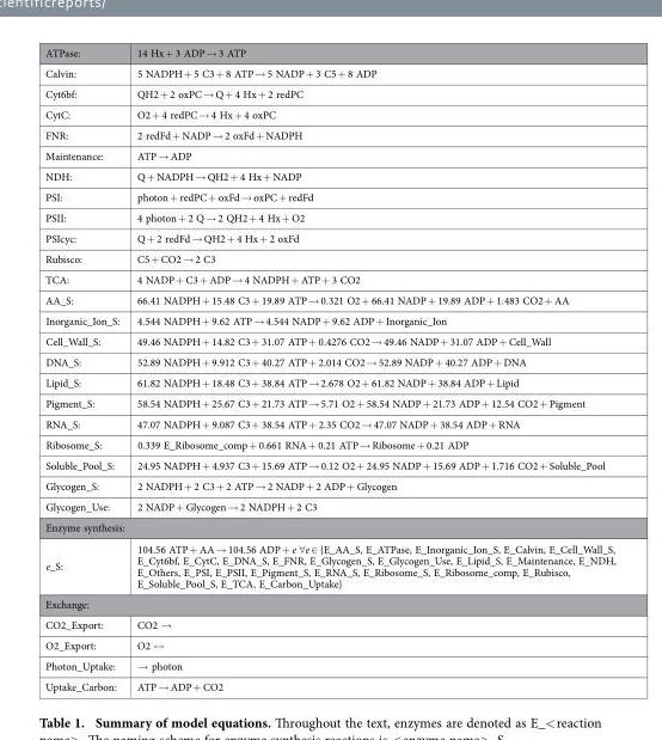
<table><tbody><tr><td>ATPase:</td><td>14 Hx + 3 ADP → 3 ATP</td></tr><tr><td>Calvin:</td><td>5 NADPH + 5 C3 + 8 ATP → 5 NADP + 3 C5 + 8 ADP</td></tr><tr><td>Cyt6bf:</td><td>QH2 + 2 oxPC → Q + 4 Hx + 2 redPC</td></tr><tr><td>CytC:</td><td>O2 + 4 redPC → 4 Hx + 4 oxPC</td></tr><tr><td>FNR:</td><td>2 redFd + NADP → 2 oxFd + NADPH</td></tr><tr><td>Maintenance:</td><td>ATP → ADP</td></tr><tr><td>NDH:</td><td>Q + NADPH → QH2 + 4 Hx + NADP</td></tr><tr><td>PSI:</td><td>photon + redPC + oxFd → oxPC + redFd</td></tr><tr><td>PSII:</td><td>4 photon + 2 Q → 2 QH2 + 4 Hx + O2</td></tr><tr><td>PSIcyc:</td><td>Q + 2 redFd → QH2 + 4 Hx + 2 oxFd</td></tr><tr><td>Rubisco:</td><td>C5 + CO2 → 2 C3</td></tr><tr><td>TCA:</td><td>4 NADP + C3 + ADP → 4 NADPH + ATP + 3 CO2</td></tr><tr><td>AA_S:</td><td>66.41 NADPH + 15.48 C3 + 19.89 ATP → 0.321 O2 + 66.41 NADP + 19.89 ADP + 1.483 CO2 + AA</td></tr><tr><td>Inorganic_Ion_S:</td><td>4.544 NADPH + 9.62 ATP → 4.544 NADP + 9.62 ADP + Inorganic_Ion</td></tr><tr><td>Cell_Wall_S:</td><td>49.46 NADPH + 14.82 C3 + 31.07 ATP + 0.4276 CO2 → 49.46 NADP + 31.07 ADP + Cell_Wall</td></tr><tr><td>DNA_S:</td><td>52.89 NADPH + 9.912 C3 + 40.27 ATP + 2.014 CO2 → 52.89 NADP + 40.27 ADP + DNA</td></tr><tr><td>Lipid_S:</td><td>61.82 NADPH + 18.48 C3 + 38.84 ATP → 2.678 O2 + 61.82 NADP + 38.84 ADP + Lipid</td></tr><tr><td>Pigment_S:</td><td>58.54 NADPH + 25.67 C3 + 21.73 ATP → 5.71 O2 + 58.54 NADP + 21.73 ADP + 12.54 CO2 + Pigment</td></tr><tr><td>RNA_S:</td><td>47.07 NADPH + 9.087 C3 + 38.54 ATP + 2.35 CO2 → 47.07 NADP + 38.54 ADP + RNA</td></tr><tr><td>Ribosome_S:</td><td>0.339 E_Ribosome_comp + 0.661 RNA + 0.21 ATP → Ribosome + 0.21 ADP</td></tr><tr><td>Soluble_Pool_S:</td><td>24.95 NADPH + 4.937 C3 + 15.69 ATP → 0.12 O2 + 24.95 NADP + 15.69 ADP + 1.716 CO2 + Soluble_Pool</td></tr><tr><td>Glycogen_S:</td><td>2 NADPH + 2 C3 + 2 ATP → 2 NADP + 2 ADP + Glycogen</td></tr><tr><td>Glycogen_Use:</td><td>2 NADP + Glycogen → 2 NADPH + 2 C3</td></tr><tr><td colspan="2">Enzyme synthesis:</td></tr><tr><td>e_S:</td><td>104.56 ATP + AA → 104.56 ADP + e ∀e ∈ {E_AA_S, E_ATPase, E_Inorganic_Ion_S, E_Calvin, E_Cell_Wall_S, E_Cyt6bf, E_CytC, E_DNA_S, E_FNR, E_Glycogen_S, E_Glycogen_Use, E_Lipid_S, E_Maintenance, E_NDH, E_Others, E_PSI, E_PSII, E_Pigment_S, E_RNA_S, E_Ribosome_S, E_Ribosome_comp, E_Rubisco, E_Soluble_Pool_S, E_TCA, E_Carbon_Uptake}</td></tr><tr><td colspan="2">Exchange:</td></tr><tr><td>CO2_Export:</td><td>CO2 →</td></tr><tr><td>O2_Export:</td><td>O2 ↔</td></tr><tr><td>Photon_Uptake:</td><td>→ photon</td></tr><tr><td>Uptake_Carbon:</td><td>ATP → ADP + CO2</td></tr></tbody></table>